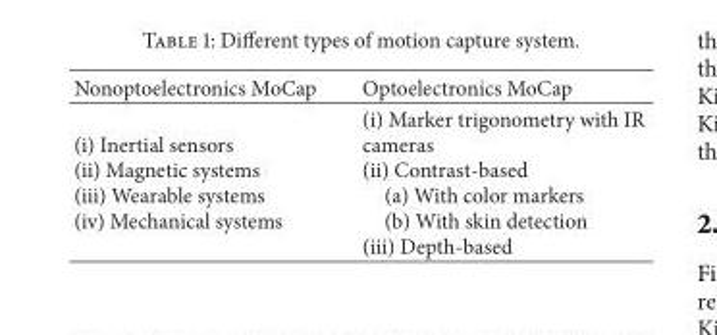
<table><thead><tr><td>Nonoptoelectronics MoCap</td><td>Optoelectronics MoCap</td></tr></thead><tbody><tr><td>(i) Inertial sensors (ii) Magnetic systems (iii) Wearable systems (iv) Mechanical systems</td><td>(i) Marker trigonometry with IR cameras (ii) Contrast-based (a) With color markers (b) With skin detection (iii) Depth-based</td></tr></tbody></table>